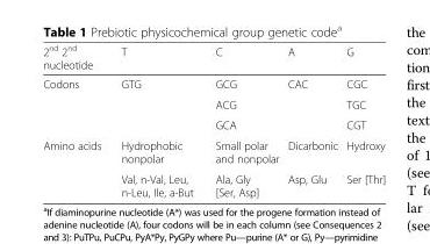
<table><thead><tr><td>2<sup>nd</sup> 2<sup>nd</sup> nucleotide</td><td>T</td><td>C</td><td>A</td><td>G</td></tr></thead><tbody><tr><td rowspan="3">Codons</td><td rowspan="3">GTG</td><td>GCG</td><td>CAC</td><td>CGC</td></tr><tr><td>ACG</td><td></td><td>TGC</td></tr><tr><td>GCA</td><td></td><td>CGT</td></tr><tr><td rowspan="2">Amino acids</td><td>Hydrophobic nonpolar</td><td>Small polar and nonpolar</td><td>Dicarbonic</td><td>Hydroxy</td></tr><tr><td>Val, n-Val, Leu, n-Leu, Ile, a-But</td><td>Ala, Gly [Ser, Asp]</td><td>Asp, Glu</td><td>Ser [Thr]</td></tr></tbody></table>